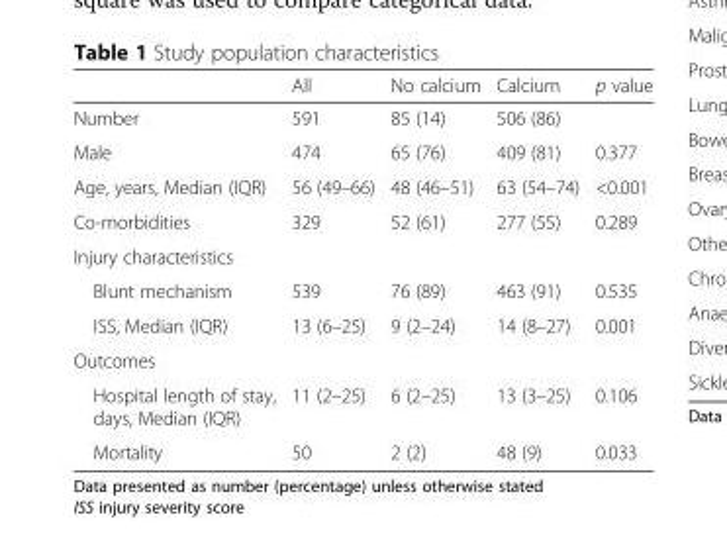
<table><thead><tr><td></td><td>All</td><td>No calcium</td><td>Calcium</td><td>p value</td></tr></thead><tbody><tr><td>Number</td><td>591</td><td>85 (14)</td><td>506 (86)</td><td></td></tr><tr><td>Male</td><td>474</td><td>65 (76)</td><td>409 (81)</td><td>0.377</td></tr><tr><td>Age, years, Median (IQR)</td><td>56 (49–66)</td><td>48 (46–51)</td><td>63 (54–74)</td><td>&lt;0.001</td></tr><tr><td>Co-morbidities</td><td>329</td><td>52 (61)</td><td>277 (55)</td><td>0.289</td></tr><tr><td colspan="5">Injury characteristics</td></tr><tr><td>Blunt mechanism</td><td>539</td><td>76 (89)</td><td>463 (91)</td><td>0.535</td></tr><tr><td>ISS, Median (IQR)</td><td>13 (6–25)</td><td>9 (2–24)</td><td>14 (8–27)</td><td>0.001</td></tr><tr><td colspan="5">Outcomes</td></tr><tr><td>Hospital length of stay, days, Median (IQR)</td><td>11 (2–25)</td><td>6 (2–25)</td><td>13 (3–25)</td><td>0.106</td></tr><tr><td>Mortality</td><td>50</td><td>2 (2)</td><td>48 (9)</td><td>0.033</td></tr></tbody></table>